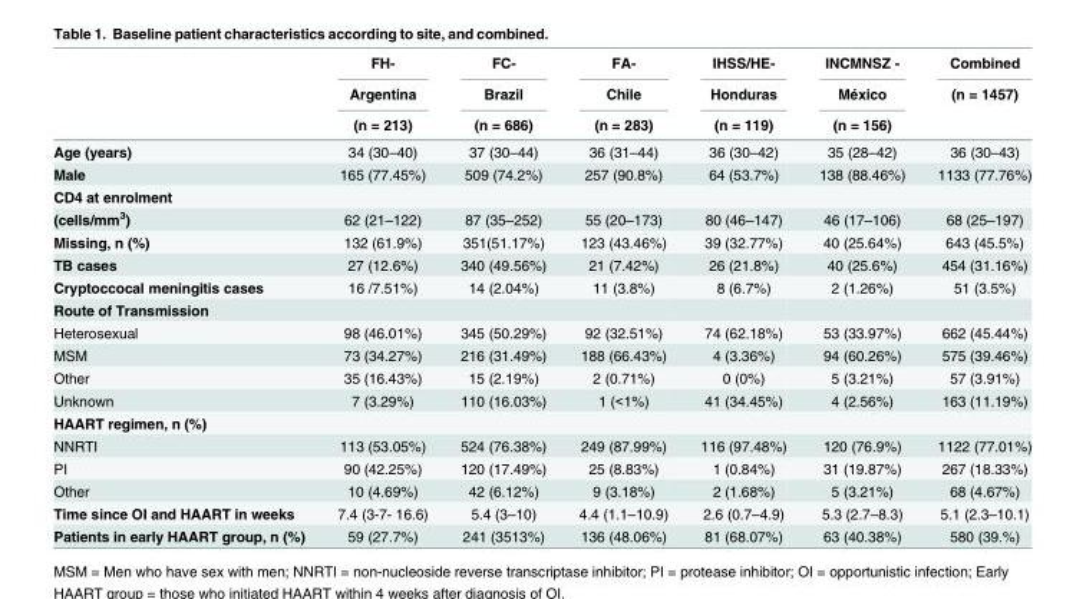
<table><thead><tr><td rowspan="3"></td><td rowspan="3">FH- Argentina (n = 213)</td><td rowspan="3">FC- Brazil (n = 686)</td><td rowspan="3">FA- Chile (n = 283)</td><td rowspan="3">IHSS/HE- Honduras (n = 119)</td><td rowspan="3">INCMNSZ - México (n = 156)</td><td rowspan="3">Combined (n = 1457)</td></tr><tr></tr><tr></tr></thead><tbody><tr><td>Age (years)</td><td>34 (30–40)</td><td>37 (30–44)</td><td>36 (31–44)</td><td>36 (30–42)</td><td>35 (28–42)</td><td>36 (30–43)</td></tr><tr><td>Male</td><td>165 (77.45%)</td><td>509 (74.2%)</td><td>257 (90.8%)</td><td>64 (53.7%)</td><td>138 (88.46%)</td><td>1133 (77.76%)</td></tr><tr><td colspan="7">CD4 at enrolment</td></tr><tr><td>(cells/mm<sup>3</sup>)</td><td>62 (21–122)</td><td>87 (35–252)</td><td>55 (20–173)</td><td>80 (46–147)</td><td>46 (17–106)</td><td>68 (25–197)</td></tr><tr><td>Missing, n (%)</td><td>132 (61.9%)</td><td>351(51.17%)</td><td>123 (43.46%)</td><td>39 (32.77%)</td><td>40 (25.64%)</td><td>643 (45.5%)</td></tr><tr><td>TB cases</td><td>27 (12.6%)</td><td>340 (49.56%)</td><td>21 (7.42%)</td><td>26 (21.8%)</td><td>40 (25.6%)</td><td>454 (31.16%)</td></tr><tr><td>Cryptoccocal meningitis cases</td><td>16 /7.51%)</td><td>14 (2.04%)</td><td>11 (3.8%)</td><td>8 (6.7%)</td><td>2 (1.26%)</td><td>51 (3.5%)</td></tr><tr><td colspan="7">Route of Transmission</td></tr><tr><td>Heterosexual</td><td>98 (46.01%)</td><td>345 (50.29%)</td><td>92 (32.51%)</td><td>74 (62.18%)</td><td>53 (33.97%)</td><td>662 (45.44%)</td></tr><tr><td>MSM</td><td>73 (34.27%)</td><td>216 (31.49%)</td><td>188 (66.43%)</td><td>4 (3.36%)</td><td>94 (60.26%)</td><td>575 (39.46%)</td></tr><tr><td>Other</td><td>35 (16.43%)</td><td>15 (2.19%)</td><td>2 (0.71%)</td><td>0 (0%)</td><td>5 (3.21%)</td><td>57 (3.91%)</td></tr><tr><td>Unknown</td><td>7 (3.29%)</td><td>110 (16.03%)</td><td>1 (&lt;1%)</td><td>41 (34.45%)</td><td>4 (2.56%)</td><td>163 (11.19%)</td></tr><tr><td colspan="7">HAART regimen, n (%)</td></tr><tr><td>NNRTI</td><td>113 (53.05%)</td><td>524 (76.38%)</td><td>249 (87.99%)</td><td>116 (97.48%)</td><td>120 (76.9%)</td><td>1122 (77.01%)</td></tr><tr><td>PI</td><td>90 (42.25%)</td><td>120 (17.49%)</td><td>25 (8.83%)</td><td>1 (0.84%)</td><td>31 (19.87%)</td><td>267 (18.33%)</td></tr><tr><td>Other</td><td>10 (4.69%)</td><td>42 (6.12%)</td><td>9 (3.18%)</td><td>2 (1.68%)</td><td>5 (3.21%)</td><td>68 (4.67%)</td></tr><tr><td>Time since OI and HAART in weeks</td><td>7.4 (3-7- 16.6)</td><td>5.4 (3–10)</td><td>4.4 (1.1–10.9)</td><td>2.6 (0.7–4.9)</td><td>5.3 (2.7–8.3)</td><td>5.1 (2.3–10.1)</td></tr><tr><td>Patients in early HAART group, n (%)</td><td>59 (27.7%)</td><td>241 (3513%)</td><td>136 (48.06%)</td><td>81 (68.07%)</td><td>63 (40.38%)</td><td>580 (39.%)</td></tr></tbody></table>